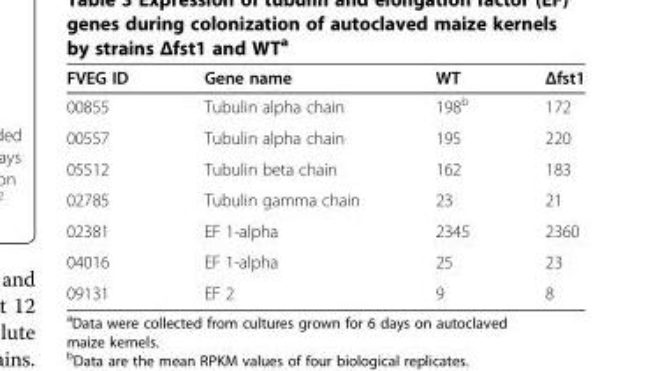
<table><thead><tr><td>FVEG ID</td><td>Gene name</td><td>WT</td><td>Δfst1</td></tr></thead><tbody><tr><td>00855</td><td>Tubulin alpha chain</td><td>198<sup>b</sup></td><td>172</td></tr><tr><td>00557</td><td>Tubulin alpha chain</td><td>195</td><td>220</td></tr><tr><td>05512</td><td>Tubulin beta chain</td><td>162</td><td>183</td></tr><tr><td>02785</td><td>Tubulin gamma chain</td><td>23</td><td>21</td></tr><tr><td>02381</td><td>EF 1-alpha</td><td>2345</td><td>2360</td></tr><tr><td>04016</td><td>EF 1-alpha</td><td>25</td><td>23</td></tr><tr><td>09131</td><td>EF 2</td><td>9</td><td>8</td></tr></tbody></table>